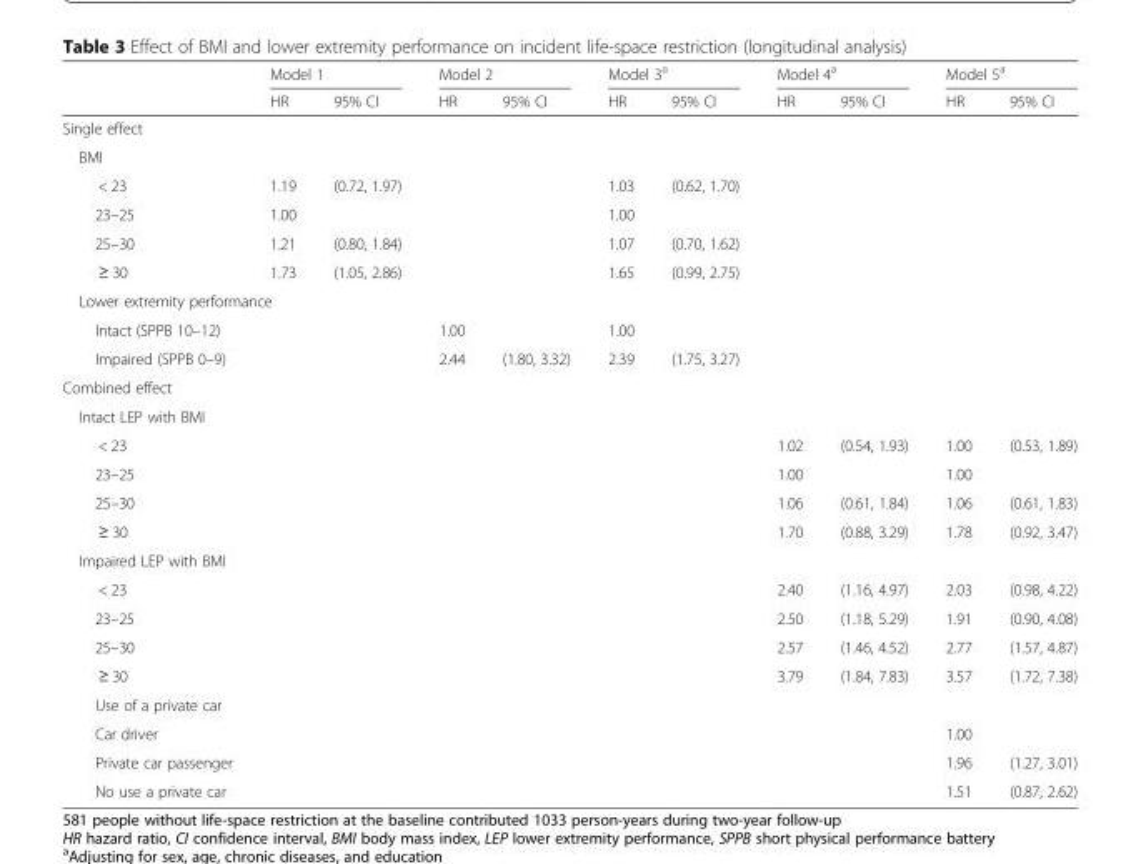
<table><thead><tr><td rowspan="2"></td><td colspan="2">Model 1</td><td colspan="2">Model 2</td><td colspan="2">Model 3<sup>a</sup></td><td colspan="2">Model 4<sup>a</sup></td><td colspan="2">Model 5<sup>a</sup></td></tr><tr><td>HR</td><td>95% CI</td><td>HR</td><td>95% CI</td><td>HR</td><td>95% CI</td><td>HR</td><td>95% CI</td><td>HR</td><td>95% CI</td></tr></thead><tbody><tr><td colspan="11">Single effect</td></tr><tr><td colspan="11">BMI</td></tr><tr><td>&lt; 23</td><td>1.19</td><td>(0.72, 1.97)</td><td></td><td></td><td>1.03</td><td>(0.62, 1.70)</td><td></td><td></td><td></td><td></td></tr><tr><td>23–25</td><td>1.00</td><td></td><td></td><td></td><td>1.00</td><td></td><td></td><td></td><td></td><td></td></tr><tr><td>25–30</td><td>1.21</td><td>(0.80, 1.84)</td><td></td><td></td><td>1.07</td><td>(0.70, 1.62)</td><td></td><td></td><td></td><td></td></tr><tr><td>≥ 30</td><td>1.73</td><td>(1.05, 2.86)</td><td></td><td></td><td>1.65</td><td>(0.99, 2.75)</td><td></td><td></td><td></td><td></td></tr><tr><td colspan="11">Lower extremity performance</td></tr><tr><td>Intact (SPPB 10–12)</td><td></td><td></td><td>1.00</td><td></td><td>1.00</td><td></td><td></td><td></td><td></td><td></td></tr><tr><td>Impaired (SPPB 0–9)</td><td></td><td></td><td>2.44</td><td>(1.80, 3.32)</td><td>2.39</td><td>(1.75, 3.27)</td><td></td><td></td><td></td><td></td></tr><tr><td colspan="11">Combined effect</td></tr><tr><td colspan="11">Intact LEP with BMI</td></tr><tr><td>&lt; 23</td><td></td><td></td><td></td><td></td><td></td><td></td><td>1.02</td><td>(0.54, 1.93)</td><td>1.00</td><td>(0.53, 1.89)</td></tr><tr><td>23–25</td><td></td><td></td><td></td><td></td><td></td><td></td><td>1.00</td><td></td><td>1.00</td><td></td></tr><tr><td>25–30</td><td></td><td></td><td></td><td></td><td></td><td></td><td>1.06</td><td>(0.61, 1.84)</td><td>1.06</td><td>(0.61, 1.83)</td></tr><tr><td>≥ 30</td><td></td><td></td><td></td><td></td><td></td><td></td><td>1.70</td><td>(0.88, 3.29)</td><td>1.78</td><td>(0.92, 3.47)</td></tr><tr><td colspan="11">Impaired LEP with BMI</td></tr><tr><td>&lt; 23</td><td></td><td></td><td></td><td></td><td></td><td></td><td>2.40</td><td>(1.16, 4.97)</td><td>2.03</td><td>(0.98, 4.22)</td></tr><tr><td>23–25</td><td></td><td></td><td></td><td></td><td></td><td></td><td>2.50</td><td>(1.18, 5.29)</td><td>1.91</td><td>(0.90, 4.08)</td></tr><tr><td>25–30</td><td></td><td></td><td></td><td></td><td></td><td></td><td>2.57</td><td>(1.46, 4.52)</td><td>2.77</td><td>(1.57, 4.87)</td></tr><tr><td>≥ 30</td><td></td><td></td><td></td><td></td><td></td><td></td><td>3.79</td><td>(1.84, 7.83)</td><td>3.57</td><td>(1.72, 7.38)</td></tr><tr><td colspan="11">Use of a private car</td></tr><tr><td>Car driver</td><td></td><td></td><td></td><td></td><td></td><td></td><td></td><td></td><td>1.00</td><td></td></tr><tr><td>Private car passenger</td><td></td><td></td><td></td><td></td><td></td><td></td><td></td><td></td><td>1.96</td><td>(1.27, 3.01)</td></tr><tr><td>No use a private car</td><td></td><td></td><td></td><td></td><td></td><td></td><td></td><td></td><td>1.51</td><td>(0.87, 2.62)</td></tr></tbody></table>